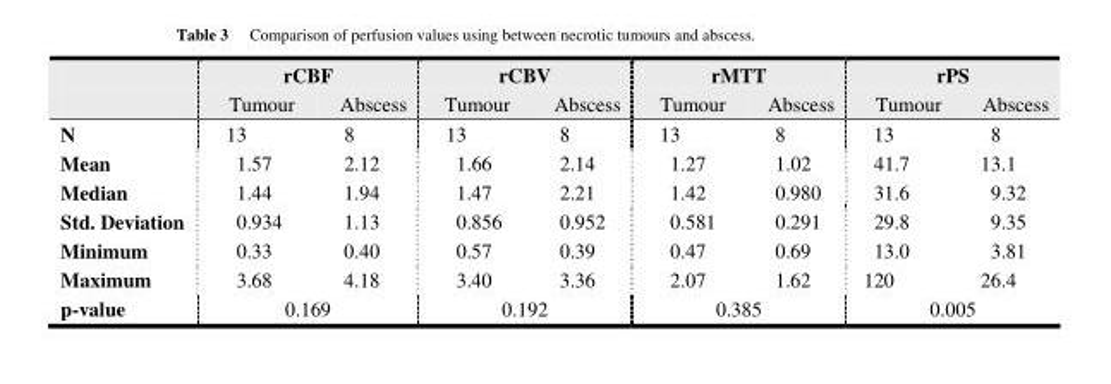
<table><thead><tr><td rowspan="2"></td><td colspan="2">rCBF</td><td colspan="2">rCBV</td><td colspan="2">rMTT</td><td colspan="2">rPS</td></tr><tr><td>Tumour</td><td>Abscess</td><td>Tumour</td><td>Abscess</td><td>Tumour</td><td>Abscess</td><td>Tumour</td><td>Abscess</td></tr></thead><tbody><tr><td>N</td><td>13</td><td>8</td><td>13</td><td>8</td><td>13</td><td>8</td><td>13</td><td>8</td></tr><tr><td>Mean</td><td>1.57</td><td>2.12</td><td>1.66</td><td>2.14</td><td>1.27</td><td>1.02</td><td>41.7</td><td>13.1</td></tr><tr><td>Median</td><td>1.44</td><td>1.94</td><td>1.47</td><td>2.21</td><td>1.42</td><td>0.980</td><td>31.6</td><td>9.32</td></tr><tr><td>Std. Deviation</td><td>0.934</td><td>1.13</td><td>0.856</td><td>0.952</td><td>0.581</td><td>0.291</td><td>29.8</td><td>9.35</td></tr><tr><td>Minimum</td><td>0.33</td><td>0.40</td><td>0.57</td><td>0.39</td><td>0.47</td><td>0.69</td><td>13.0</td><td>3.81</td></tr><tr><td>Maximum</td><td>3.68</td><td>4.18</td><td>3.40</td><td>3.36</td><td>2.07</td><td>1.62</td><td>120</td><td>26.4</td></tr><tr><td>p-value</td><td colspan="2">0.169</td><td colspan="2">0.192</td><td colspan="2">0.385</td><td colspan="2">0.005</td></tr></tbody></table>